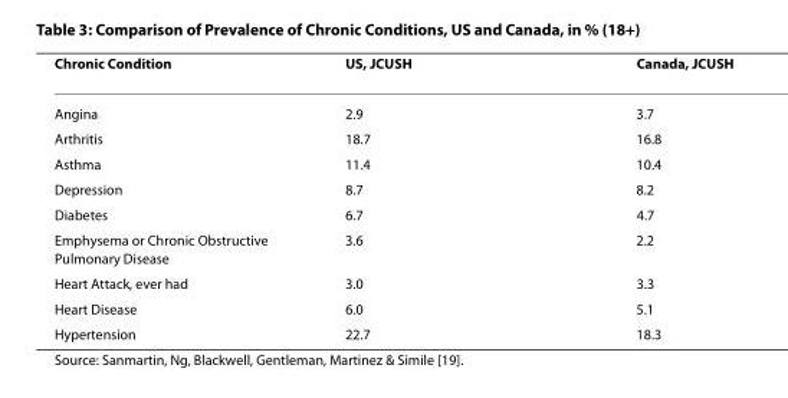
<table><thead><tr><td>Chronic Condition</td><td>US, JCUSH</td><td>Canada, JCUSH</td></tr></thead><tbody><tr><td>Angina</td><td>2.9</td><td>3.7</td></tr><tr><td>Arthritis</td><td>18.7</td><td>16.8</td></tr><tr><td>Asthma</td><td>11.4</td><td>10.4</td></tr><tr><td>Depression</td><td>8.7</td><td>8.2</td></tr><tr><td>Diabetes</td><td>6.7</td><td>4.7</td></tr><tr><td>Emphysema or Chronic Obstructive Pulmonary Disease</td><td>3.6</td><td>2.2</td></tr><tr><td>Heart Attack, ever had</td><td>3.0</td><td>3.3</td></tr><tr><td>Heart Disease</td><td>6.0</td><td>5.1</td></tr><tr><td>Hypertension</td><td>22.7</td><td>18.3</td></tr></tbody></table>